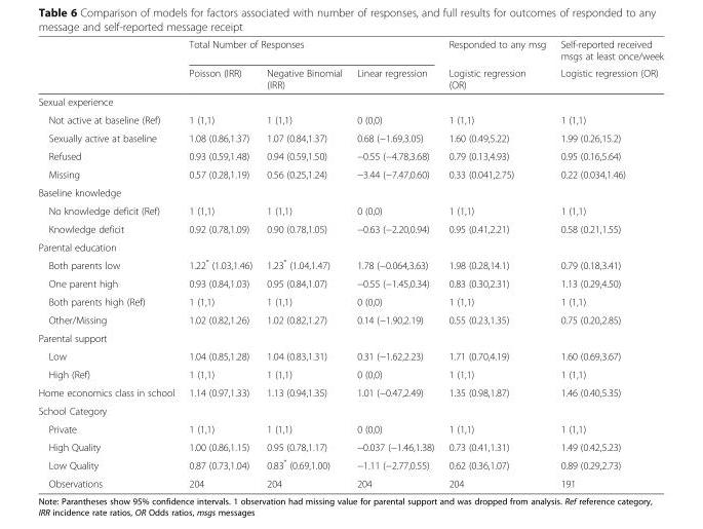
<table><thead><tr><td rowspan="2"></td><td colspan="3">Total Number of Responses</td><td rowspan="2">Responded to any msg Logistic regression (OR)</td><td rowspan="2">Self-reported received msgs at least once/week Logistic regression (OR)</td></tr><tr><td>Poisson (IRR)</td><td>Negative Binomial (IRR)</td><td>Linear regression</td></tr></thead><tbody><tr><td colspan="6">Sexual experience</td></tr><tr><td>Not active at baseline (Ref)</td><td>1 (1,1)</td><td>1 (1,1)</td><td>0 (0,0)</td><td>1 (1,1)</td><td>1 (1,1)</td></tr><tr><td>Sexually active at baseline</td><td>1.08 (0.86,1.37)</td><td>1.07 (0.84,1.37)</td><td>0.68 (−1.69,3.05)</td><td>1.60 (0.49,5.22)</td><td>1.99 (0.26,15.2)</td></tr><tr><td>Refused</td><td>0.93 (0.59,1.48)</td><td>0.94 (0.59,1.50)</td><td>−0.55 (−4.78,3.68)</td><td>0.79 (0.13,4.93)</td><td>0.95 (0.16,5.64)</td></tr><tr><td>Missing</td><td>0.57 (0.28,1.19)</td><td>0.56 (0.25,1.24)</td><td>−3.44 (−7.47,0.60)</td><td>0.33 (0.041,2.75)</td><td>0.22 (0.034,1.46)</td></tr><tr><td colspan="6">Baseline knowledge</td></tr><tr><td>No knowledge deficit (Ref)</td><td>1 (1,1)</td><td>1 (1,1)</td><td>0 (0,0)</td><td>1 (1,1)</td><td>1 (1,1)</td></tr><tr><td>Knowledge deficit</td><td>0.92 (0.78,1.09)</td><td>0.90 (0.78,1.05)</td><td>−0.63 (−2.20,0.94)</td><td>0.95 (0.41,2.21)</td><td>0.58 (0.21,1.55)</td></tr><tr><td colspan="6">Parental education</td></tr><tr><td>Both parents low</td><td>1.22* (1.03,1.46)</td><td>1.23* (1.04,1.47)</td><td>1.78 (−0.064,3.63)</td><td>1.98 (0.28,14.1)</td><td>0.79 (0.18,3.41)</td></tr><tr><td>One parent high</td><td>0.93 (0.84,1.03)</td><td>0.95 (0.84,1.07)</td><td>−0.55 (−1.45,0.34)</td><td>0.83 (0.30,2.31)</td><td>1.13 (0.29,4.50)</td></tr><tr><td>Both parents high (Ref)</td><td>1 (1,1)</td><td>1 (1,1)</td><td>0 (0,0)</td><td>1 (1,1)</td><td>1 (1,1)</td></tr><tr><td>Other/Missing</td><td>1.02 (0.82,1.26)</td><td>1.02 (0.82,1.27)</td><td>0.14 (−1.90,2.19)</td><td>0.55 (0.23,1.35)</td><td>0.75 (0.20,2.85)</td></tr><tr><td colspan="6">Parental support</td></tr><tr><td>Low</td><td>1.04 (0.85,1.28)</td><td>1.04 (0.83,1.31)</td><td>0.31 (−1.62,2.23)</td><td>1.71 (0.70,4.19)</td><td>1.60 (0.69,3.67)</td></tr><tr><td>High (Ref)</td><td>1 (1,1)</td><td>1 (1,1)</td><td>0 (0,0)</td><td>1 (1,1)</td><td>1 (1,1)</td></tr><tr><td>Home economics class in school</td><td>1.14 (0.97,1.33)</td><td>1.13 (0.94,1.35)</td><td>1.01 (−0.47,2.49)</td><td>1.35 (0.98,1.87)</td><td>1.46 (0.40,5.35)</td></tr><tr><td colspan="6">School Category</td></tr><tr><td>Private</td><td>1 (1,1)</td><td>1 (1,1)</td><td>0 (0,0)</td><td>1 (1,1)</td><td>1 (1,1)</td></tr><tr><td>High Quality</td><td>1.00 (0.86,1.15)</td><td>0.95 (0.78,1.17)</td><td>−0.037 (−1.46,1.38)</td><td>0.73 (0.41,1.31)</td><td>1.49 (0.42,5.23)</td></tr><tr><td>Low Quality</td><td>0.87 (0.73,1.04)</td><td>0.83* (0.69,1.00)</td><td>−1.11 (−2.77,0.55)</td><td>0.62 (0.36,1.07)</td><td>0.89 (0.29,2.73)</td></tr><tr><td>Observations</td><td>204</td><td>204</td><td>204</td><td>204</td><td>191</td></tr></tbody></table>